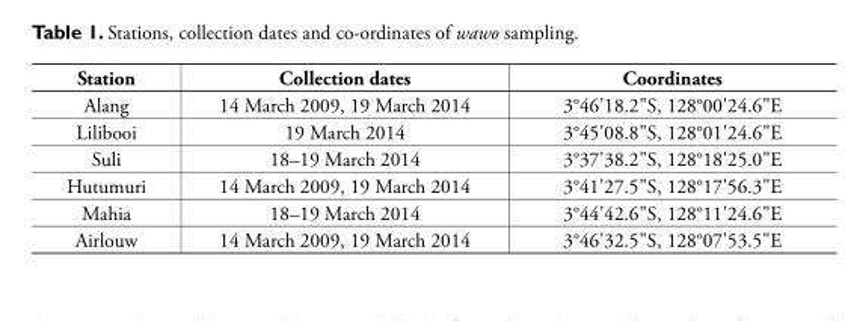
<table><thead><tr><td>Station</td><td>Collection dates</td><td>Coordinates</td></tr></thead><tbody><tr><td>Alang</td><td>14 March 2009, 19 March 2014</td><td>3°46&#x27;18.2&quot;S, 128°00&#x27;24.6&quot;E</td></tr><tr><td>Lilibooi</td><td>19 March 2014</td><td>3°45&#x27;08.8&quot;S, 128°01&#x27;24.6&quot;E</td></tr><tr><td>Suli</td><td>18–19 March 2014</td><td>3°37&#x27;38.2&quot;S, 128°18&#x27;25.0&quot;E</td></tr><tr><td>Hutumuri</td><td>14 March 2009, 19 March 2014</td><td>3°41&#x27;27.5&quot;S, 128°17&#x27;56.3&quot;E</td></tr><tr><td>Mahia</td><td>18–19 March 2014</td><td>3°44&#x27;42.6&quot;S, 128°11&#x27;24.6&quot;E</td></tr><tr><td>Airlouw</td><td>14 March 2009, 19 March 2014</td><td>3°46&#x27;32.5&quot;S, 128°07&#x27;53.5&quot;E</td></tr></tbody></table>